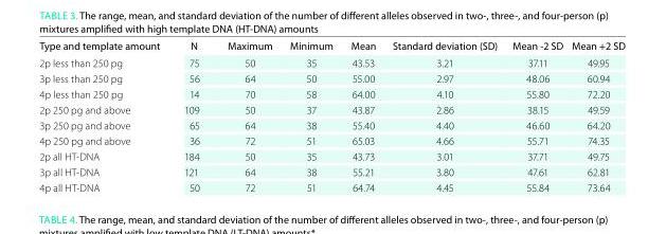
<table><thead><tr><td>Type and template amount</td><td>N</td><td>Maximum</td><td>Minimum</td><td>Mean</td><td>standard deviation (sD)</td><td>Mean -2 sD</td><td>Mean +2 sD</td></tr></thead><tbody><tr><td>2p less than 250 pg</td><td>75</td><td>50</td><td>35</td><td>43.53</td><td>3.21</td><td>37.11</td><td>49.95</td></tr><tr><td>3p less than 250 pg</td><td>56</td><td>64</td><td>50</td><td>55.00</td><td>2.97</td><td>48.06</td><td>60.94</td></tr><tr><td>4p less than 250 pg</td><td>14</td><td>70</td><td>58</td><td>64.00</td><td>4.10</td><td>55.80</td><td>72.20</td></tr><tr><td>2p 250 pg and above</td><td>109</td><td>50</td><td>37</td><td>43.87</td><td>2.86</td><td>38.15</td><td>49.59</td></tr><tr><td>3p 250 pg and above</td><td>65</td><td>64</td><td>38</td><td>55.40</td><td>4.40</td><td>46.60</td><td>64.20</td></tr><tr><td>4p 250 pg and above</td><td>36</td><td>72</td><td>51</td><td>65.03</td><td>4.66</td><td>55.71</td><td>74.35</td></tr><tr><td>2p all HT-DNA</td><td>184</td><td>50</td><td>35</td><td>43.73</td><td>3.01</td><td>37.71</td><td>49.75</td></tr><tr><td>3p all HT-DNA</td><td>121</td><td>64</td><td>38</td><td>55.21</td><td>3.80</td><td>47.61</td><td>62.81</td></tr><tr><td>4p all HT-DNA</td><td>50</td><td>72</td><td>51</td><td>64.74</td><td>4.45</td><td>55.84</td><td>73.64</td></tr></tbody></table>